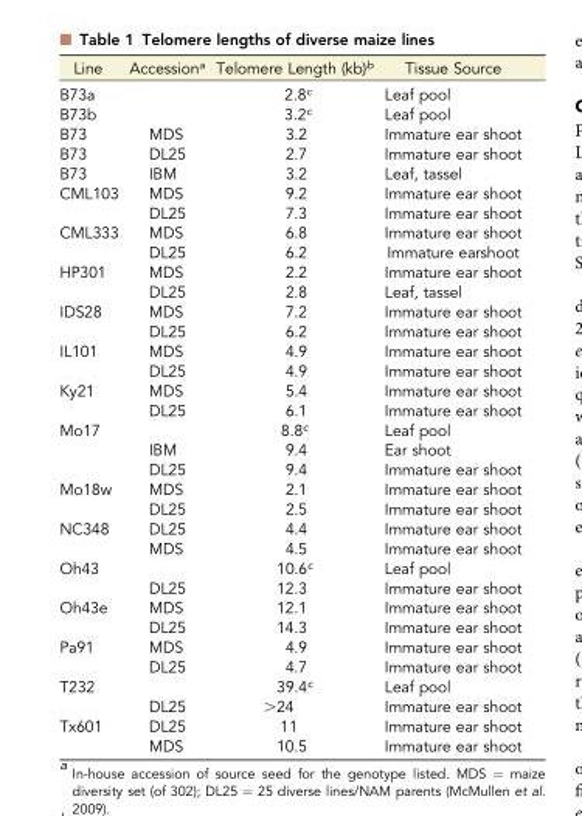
<table><thead><tr><td>Line</td><td>Accession<sup>a</sup></td><td>Telomere Length (kb)<sup>b</sup></td><td>Tissue Source</td></tr></thead><tbody><tr><td>B73a</td><td></td><td>2.8<sup>c</sup></td><td>Leaf pool</td></tr><tr><td>B73b</td><td></td><td>3.2<sup>c</sup></td><td>Leaf pool</td></tr><tr><td>B73</td><td>MDS</td><td>3.2</td><td>Immature ear shoot</td></tr><tr><td>B73</td><td>DL25</td><td>2.7</td><td>Immature ear shoot</td></tr><tr><td>B73</td><td>IBM</td><td>3.2</td><td>Leaf, tassel</td></tr><tr><td rowspan="2">CML103</td><td>MDS</td><td>9.2</td><td>Immature ear shoot</td></tr><tr><td>DL25</td><td>7.3</td><td>Immature ear shoot</td></tr><tr><td rowspan="2">CML333</td><td>MDS</td><td>6.8</td><td>Immature ear shoot</td></tr><tr><td>DL25</td><td>6.2</td><td>Immature earshoot</td></tr><tr><td rowspan="2">HP301</td><td>MDS</td><td>2.2</td><td>Immature ear shoot</td></tr><tr><td>DL25</td><td>2.8</td><td>Leaf, tassel</td></tr><tr><td rowspan="2">IDS28</td><td>MDS</td><td>7.2</td><td>Immature ear shoot</td></tr><tr><td>DL25</td><td>6.2</td><td>Immature ear shoot</td></tr><tr><td rowspan="2">IL101</td><td>MDS</td><td>4.9</td><td>Immature ear shoot</td></tr><tr><td>DL25</td><td>4.9</td><td>Immature ear shoot</td></tr><tr><td rowspan="2">Ky21</td><td>MDS</td><td>5.4</td><td>Immature ear shoot</td></tr><tr><td>DL25</td><td>6.1</td><td>Immature ear shoot</td></tr><tr><td rowspan="3">Mo17</td><td></td><td>8.8<sup>c</sup></td><td>Leaf pool</td></tr><tr><td>IBM</td><td>9.4</td><td>Ear shoot</td></tr><tr><td>DL25</td><td>9.4</td><td>Immature ear shoot</td></tr><tr><td rowspan="2">Mo18w</td><td>MDS</td><td>2.1</td><td>Immature ear shoot</td></tr><tr><td>DL25</td><td>2.5</td><td>Immature ear shoot</td></tr><tr><td rowspan="2">NC348</td><td>DL25</td><td>4.4</td><td>Immature ear shoot</td></tr><tr><td>MDS</td><td>4.5</td><td>Immature ear shoot</td></tr><tr><td rowspan="2">Oh43</td><td></td><td>10.6<sup>c</sup></td><td>Leaf pool</td></tr><tr><td>DL25</td><td>12.3</td><td>Immature ear shoot</td></tr><tr><td rowspan="2">Oh43e</td><td>MDS</td><td>12.1</td><td>Immature ear shoot</td></tr><tr><td>DL25</td><td>14.3</td><td>Immature ear shoot</td></tr><tr><td rowspan="2">Pa91</td><td>MDS</td><td>4.9</td><td>Immature ear shoot</td></tr><tr><td>DL25</td><td>4.7</td><td>Immature ear shoot</td></tr><tr><td rowspan="2">T232</td><td></td><td>39.4<sup>c</sup></td><td>Leaf pool</td></tr><tr><td>DL25</td><td>&gt;24</td><td>Immature ear shoot</td></tr><tr><td rowspan="2">Tx601</td><td>DL25</td><td>11</td><td>Immature ear shoot</td></tr><tr><td>MDS</td><td>10.5</td><td>Immature ear shoot</td></tr></tbody></table>